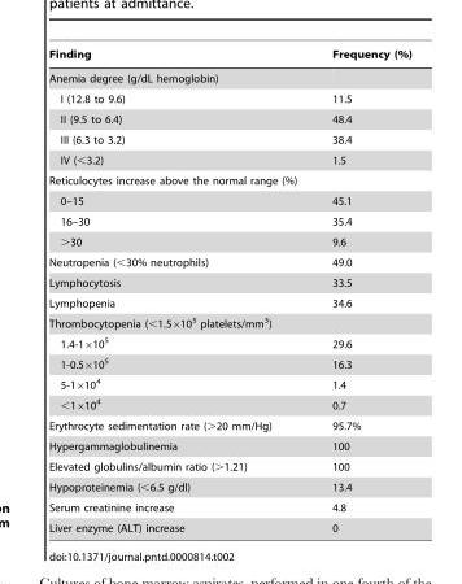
<table><thead><tr><td>Finding</td><td>Frequency (%)</td></tr></thead><tbody><tr><td colspan="2">Anemia degree (g/dL hemoglobin)</td></tr><tr><td>I (12.8 to 9.6)</td><td>11.5</td></tr><tr><td>II (9.5 to 6.4)</td><td>48.4</td></tr><tr><td>III (6.3 to 3.2)</td><td>38.4</td></tr><tr><td>IV (&lt;3.2)</td><td>1.5</td></tr><tr><td colspan="2">Reticulocytes increase above the normal range (%)</td></tr><tr><td>0–15</td><td>45.1</td></tr><tr><td>16–30</td><td>35.4</td></tr><tr><td>&gt;30</td><td>9.6</td></tr><tr><td>Neutropenia (&lt;30% neutrophils)</td><td>49.0</td></tr><tr><td>Lymphocytosis</td><td>33.5</td></tr><tr><td>Lymphopenia</td><td>34.6</td></tr><tr><td colspan="2">Thrombocytopenia (&lt;1.5×10<sup>5</sup> platelets/mm<sup>3</sup>)</td></tr><tr><td>1.4-1×10<sup>5</sup></td><td>29.6</td></tr><tr><td>1-0.5×10<sup>5</sup></td><td>16.3</td></tr><tr><td>5-1×10<sup>4</sup></td><td>1.4</td></tr><tr><td>&lt;1×10<sup>4</sup></td><td>0.7</td></tr><tr><td>Erythrocyte sedimentation rate (&gt;20 mm/Hg)</td><td>95.7%</td></tr><tr><td>Hypergammaglobulinemia</td><td>100</td></tr><tr><td>Elevated globulins/albumin ratio (&gt;1.21)</td><td>100</td></tr><tr><td>Hypoproteinemia (&lt;6.5 g/dl)</td><td>13.4</td></tr><tr><td>Serum creatinine increase</td><td>4.8</td></tr><tr><td>Liver enzyme (ALT) increase</td><td>0</td></tr></tbody></table>